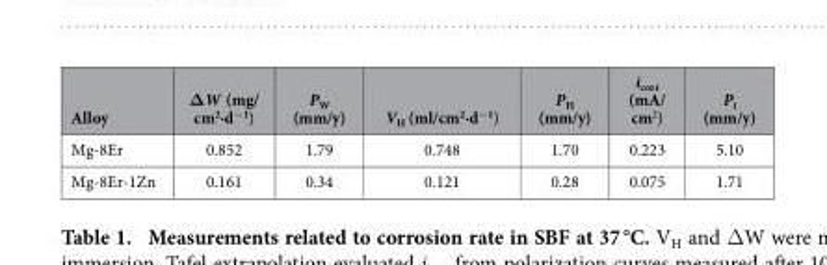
<table><thead><tr><td>Alloy</td><td>ΔW (mg/ cm<sup>2</sup>·d<sup>−1</sup>)</td><td>P<sub>W</sub> (mm/y)</td><td>V<sub>H</sub> (ml/cm<sup>2</sup>·d<sup>−1</sup>)</td><td>P<sub>H</sub> (mm/y)</td><td>i<sub>corr</sub> (mA/ cm<sup>2</sup>)</td><td>P<sub>i</sub> (mm/y)</td></tr></thead><tbody><tr><td>Mg-8Er</td><td>0.852</td><td>1.79</td><td>0.748</td><td>1.70</td><td>0.223</td><td>5.10</td></tr><tr><td>Mg-8Er-1Zn</td><td>0.161</td><td>0.34</td><td>0.121</td><td>0.28</td><td>0.075</td><td>1.71</td></tr></tbody></table>